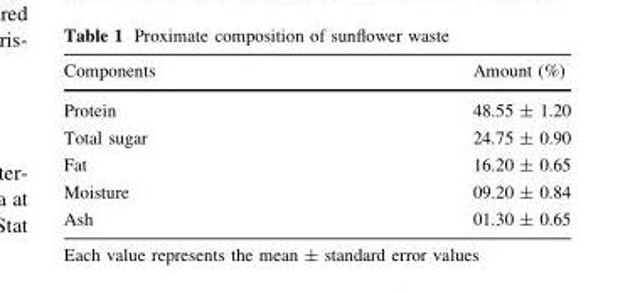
<table><thead><tr><td>Components</td><td>Amount (%)</td></tr></thead><tbody><tr><td>Protein</td><td>48.55 ± 1.20</td></tr><tr><td>Total sugar</td><td>24.75 ± 0.90</td></tr><tr><td>Fat</td><td>16.20 ± 0.65</td></tr><tr><td>Moisture</td><td>09.20 ± 0.84</td></tr><tr><td>Ash</td><td>01.30 ± 0.65</td></tr></tbody></table>